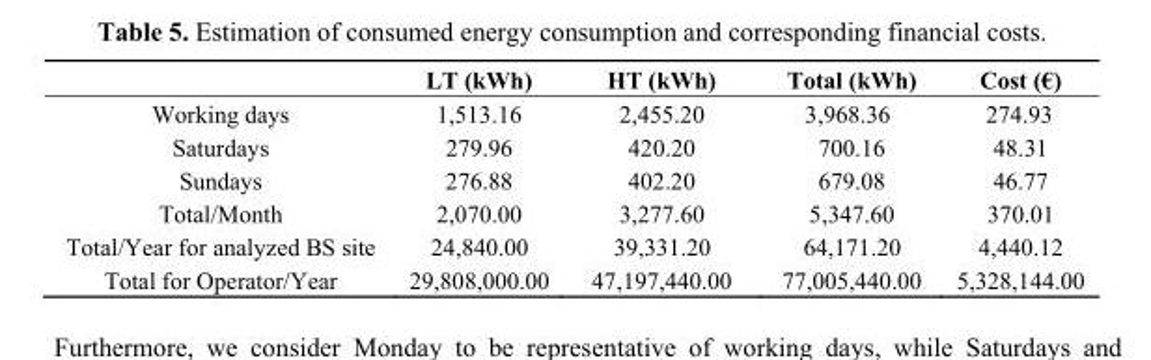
<table><thead><tr><td></td><td>LT (kWh)</td><td>HT (kWh)</td><td>Total (kWh)</td><td>Cost (€)</td></tr></thead><tbody><tr><td>Working days</td><td>1,513.16</td><td>2,455.20</td><td>3,968.36</td><td>274.93</td></tr><tr><td>Saturdays</td><td>279.96</td><td>420.20</td><td>700.16</td><td>48.31</td></tr><tr><td>Sundays</td><td>276.88</td><td>402.20</td><td>679.08</td><td>46.77</td></tr><tr><td>Total/Month</td><td>2,070.00</td><td>3,277.60</td><td>5,347.60</td><td>370.01</td></tr><tr><td>Total/Year for analyzed BS site</td><td>24,840.00</td><td>39,331.20</td><td>64,171.20</td><td>4,440.12</td></tr><tr><td>Total for Operator/Year</td><td>29,808,000.00</td><td>47,197,440.00</td><td>77,005,440.00</td><td>5,328,144.00</td></tr></tbody></table>